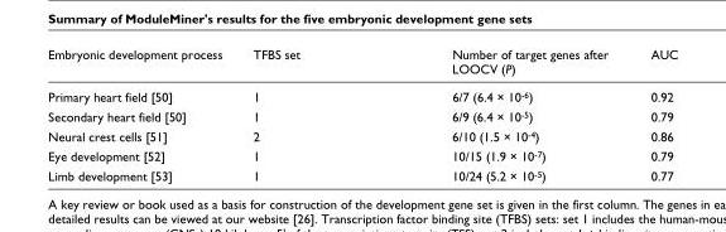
<table><thead><tr><td>Embryonic development process</td><td>TFBS set</td><td>Number of target genes after LOOCV (P)</td><td>AUC</td></tr></thead><tbody><tr><td>Primary heart field [50]</td><td>1</td><td>6/7 (6.4 × 10<sup>-6</sup>)</td><td>0.92</td></tr><tr><td>Secondary heart field [50]</td><td>1</td><td>6/9 (6.4 × 10<sup>-5</sup>)</td><td>0.79</td></tr><tr><td>Neural crest cells [51]</td><td>2</td><td>6/10 (1.5 × 10<sup>-4</sup>)</td><td>0.86</td></tr><tr><td>Eye development [52]</td><td>1</td><td>10/15 (1.9 × 10<sup>-7</sup>)</td><td>0.79</td></tr><tr><td>Limb development [53]</td><td>1</td><td>10/24 (5.2 × 10<sup>-5</sup>)</td><td>0.77</td></tr></tbody></table>